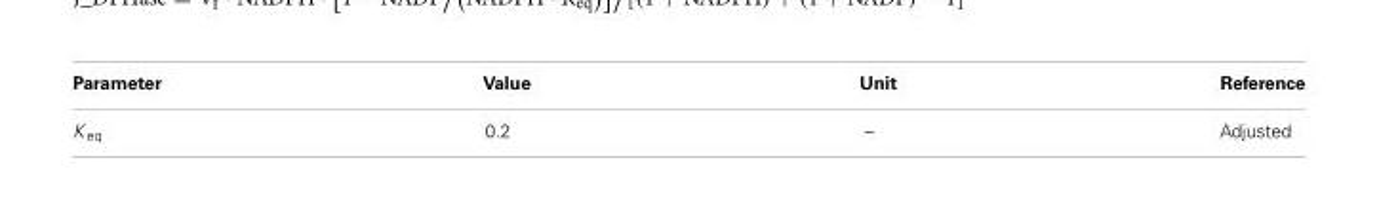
<table><thead><tr><td>Parameter</td><td>Value</td><td>Unit</td><td>Reference</td></tr></thead><tbody><tr><td>K <sub>eq</sub></td><td>0.2</td><td>–</td><td>Adjusted</td></tr></tbody></table>